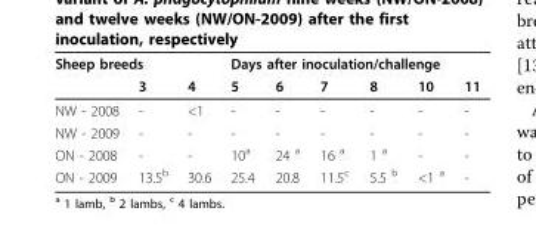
<table><thead><tr><td colspan="3">Sheep breeds</td><td colspan="6">Days after inoculation/challenge</td></tr><tr><td></td><td>3</td><td>4</td><td>5</td><td>6</td><td>7</td><td>8</td><td>10</td><td>11</td></tr></thead><tbody><tr><td>NW - 2008</td><td>-</td><td>&lt;1</td><td>-</td><td>-</td><td>-</td><td>-</td><td>-</td><td>-</td></tr><tr><td>NW - 2009</td><td>-</td><td>-</td><td>-</td><td>-</td><td>-</td><td>-</td><td>-</td><td>-</td></tr><tr><td>ON - 2008</td><td>-</td><td>-</td><td>10<sup>a</sup></td><td>24 <sup>a</sup></td><td>16 <sup>a</sup></td><td>1 <sup>a</sup></td><td>-</td><td>-</td></tr><tr><td>ON - 2009</td><td>13.5<sup>b</sup></td><td>30.6</td><td>25.4</td><td>20.8</td><td>11.5<sup>c</sup></td><td>5.5 <sup>b</sup></td><td>&lt;1 <sup>a</sup></td><td>-</td></tr></tbody></table>